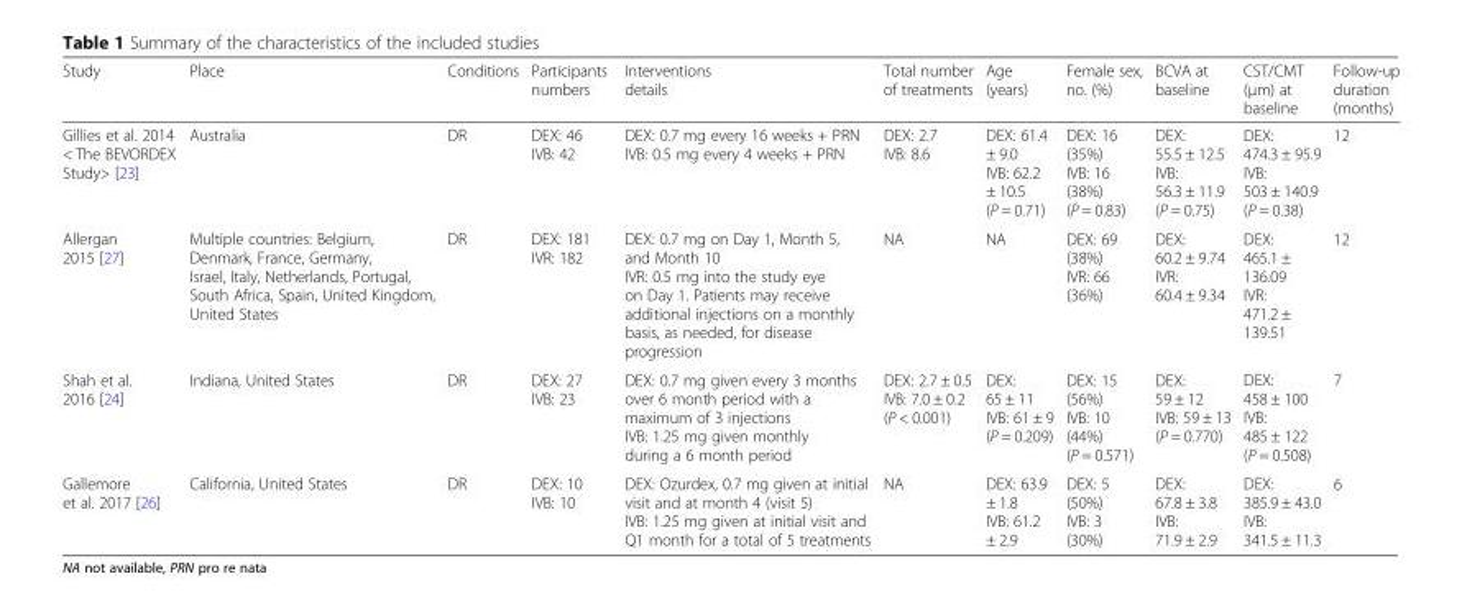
<table><thead><tr><td>Study</td><td>Place</td><td>Conditions</td><td>Participants numbers</td><td>Interventions details</td><td>Total number of treatments</td><td>Age (years)</td><td>Female sex, no. (%)</td><td>BCVA at baseline</td><td>CST/CMT (μm) at baseline</td><td>Follow-up duration (months)</td></tr></thead><tbody><tr><td>Gillies et al. 2014 &lt; The BEVORDEX Study&gt; [23]</td><td>Australia</td><td>DR</td><td>DEX: 46 IVB: 42</td><td>DEX: 0.7 mg every 16 weeks + PRN IVB: 0.5 mg every 4 weeks + PRN</td><td>DEX: 2.7 IVB: 8.6</td><td>DEX: 61.4 ± 9.0 IVB: 62.2 ± 10.5 (P = 0.71)</td><td>DEX: 16 (35%) IVB: 16 (38%) (P = 0.83)</td><td>DEX: 55.5 ± 12.5 IVB: 56.3 ± 11.9 (P = 0.75)</td><td>DEX: 474.3 ± 95.9 IVB: 503 ± 140.9 (P = 0.38)</td><td>12</td></tr><tr><td>Allergan 2015 [27]</td><td>Multiple countries: Belgium, Denmark, France, Germany, Israel, Italy, Netherlands, Portugal, South Africa, Spain, United Kingdom, United States</td><td>DR</td><td>DEX: 181 IVR: 182</td><td>DEX: 0.7 mg on Day 1, Month 5, and Month 10 IVR: 0.5 mg into the study eye on Day 1. Patients may receive additional injections on a monthly basis, as needed, for disease progression</td><td>NA</td><td>NA</td><td>DEX: 69 (38%) IVR: 66 (36%)</td><td>DEX: 60.2 ± 9.74 IVR: 60.4 ± 9.34</td><td>DEX: 465.1 ± 136.09 IVR: 471.2 ± 139.51</td><td>12</td></tr><tr><td>Shah et al. 2016 [24]</td><td>Indiana, United States</td><td>DR</td><td>DEX: 27 IVB: 23</td><td>DEX: 0.7 mg given every 3 months over 6 month period with a maximum of 3 injections IVB: 1.25 mg given monthly during a 6 month period</td><td>DEX: 2.7 ± 0.5 IVB: 7.0 ± 0.2 (P &lt; 0.001)</td><td>DEX: 65 ± 11 IVB: 61 ± 9 (P = 0.209)</td><td>DEX: 15 (56%) IVB: 10 (44%) (P = 0.571)</td><td>DEX: 59 ± 12 IVB: 59 ± 13 (P = 0.770)</td><td>DEX: 458 ± 100 IVB: 485 ± 122 (P = 0.508)</td><td>7</td></tr><tr><td>Gallemore et al. 2017 [26]</td><td>California, United States</td><td>DR</td><td>DEX: 10 IVB: 10</td><td>DEX: Ozurdex, 0.7 mg given at initial visit and at month 4 (visit 5) IVB: 1.25 mg given at initial visit and Q1 month for a total of 5 treatments</td><td>NA</td><td>DEX: 63.9 ± 1.8 IVB: 61.2 ± 2.9</td><td>DEX: 5 (50%) IVB: 3 (30%)</td><td>DEX: 67.8 ± 3.8 IVB: 71.9 ± 2.9</td><td>DEX: 385.9 ± 43.0 IVB: 341.5 ± 11.3</td><td>6</td></tr></tbody></table>